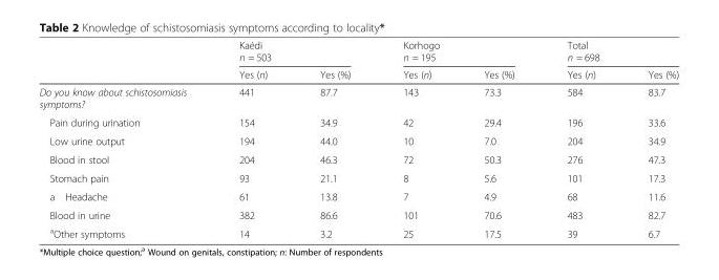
<table><thead><tr><td rowspan="2"></td><td colspan="2">Kaédi n = 503</td><td colspan="2">Korhogo n = 195</td><td colspan="2">Total n = 698</td></tr><tr><td>Yes (n)</td><td>Yes (%)</td><td>Yes (n)</td><td>Yes (%)</td><td>Yes (n)</td><td>Yes (%)</td></tr></thead><tbody><tr><td>Do you know about schistosomiasis symptoms?</td><td>441</td><td>87.7</td><td>143</td><td>73.3</td><td>584</td><td>83.7</td></tr><tr><td>Pain during urination</td><td>154</td><td>34.9</td><td>42</td><td>29.4</td><td>196</td><td>33.6</td></tr><tr><td>Low urine output</td><td>194</td><td>44.0</td><td>10</td><td>7.0</td><td>204</td><td>34.9</td></tr><tr><td>Blood in stool</td><td>204</td><td>46.3</td><td>72</td><td>50.3</td><td>276</td><td>47.3</td></tr><tr><td>Stomach pain</td><td>93</td><td>21.1</td><td>8</td><td>5.6</td><td>101</td><td>17.3</td></tr><tr><td>a Headache</td><td>61</td><td>13.8</td><td>7</td><td>4.9</td><td>68</td><td>11.6</td></tr><tr><td>Blood in urine</td><td>382</td><td>86.6</td><td>101</td><td>70.6</td><td>483</td><td>82.7</td></tr><tr><td><sup>a</sup>Other symptoms</td><td>14</td><td>3.2</td><td>25</td><td>17.5</td><td>39</td><td>6.7</td></tr></tbody></table>